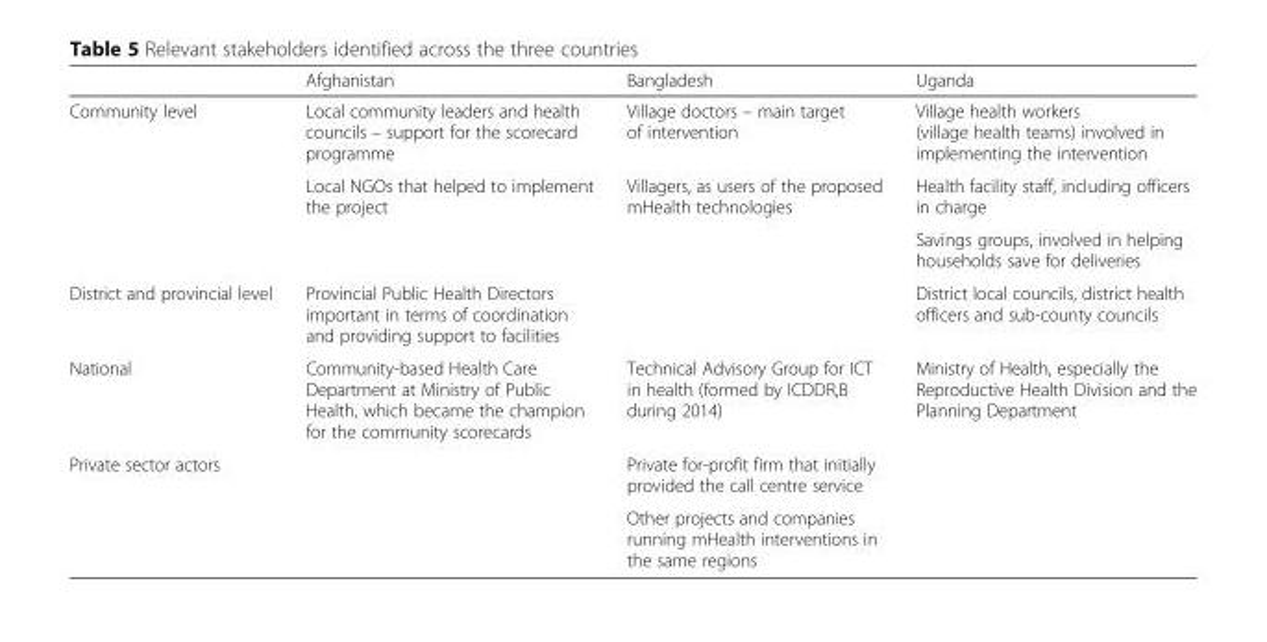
<table><thead><tr><td></td><td>Afghanistan</td><td>Bangladesh</td><td>Uganda</td></tr></thead><tbody><tr><td rowspan="3">Community level</td><td>Local community leaders and health councils – support for the scorecard programme</td><td>Village doctors – main target of intervention</td><td>Village health workers (village health teams) involved in implementing the intervention</td></tr><tr><td>Local NGOs that helped to implement the project</td><td>Villagers, as users of the proposed mHealth technologies</td><td>Health facility staff, including officers in charge</td></tr><tr><td></td><td></td><td>Savings groups, involved in helping households save for deliveries</td></tr><tr><td>District and provincial level</td><td>Provincial Public Health Directors important in terms of coordination and providing support to facilities</td><td></td><td>District local councils, district health officers and sub-county councils</td></tr><tr><td>National</td><td>Community-based Health Care Department at Ministry of Public Health, which became the champion for the community scorecards</td><td>Technical Advisory Group for ICT in health (formed by ICDDR,B during 2014)</td><td>Ministry of Health, especially the Reproductive Health Division and the Planning Department</td></tr><tr><td rowspan="2">Private sector actors</td><td></td><td>Private for-profit firm that initially provided the call centre service</td><td></td></tr><tr><td></td><td>Other projects and companies running mHealth interventions in the same regions</td><td></td></tr></tbody></table>